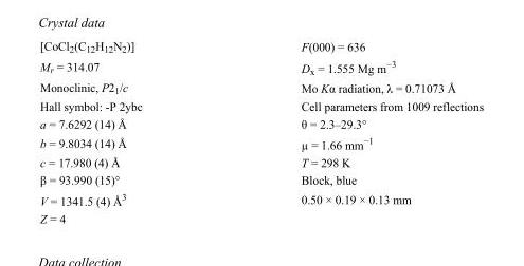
<table><tbody><tr><td>[CoCl<sub>2</sub>(C<sub>12</sub>H<sub>12</sub>N<sub>2</sub>)]</td><td>F(000) = 636</td></tr><tr><td>M<sub>r</sub> = 314.07</td><td>D<sub>x</sub> = 1.555 Mg m<sup>−3</sup></td></tr><tr><td>Monoclinic, P2<sub>1</sub>/c</td><td>Mo Kα radiation, λ = 0.71073 Å</td></tr><tr><td>Hall symbol: -P 2ybc</td><td>Cell parameters from 1009 reflections</td></tr><tr><td>a = 7.6292 (14) Å</td><td>θ = 2.3–29.3°</td></tr><tr><td>b = 9.8034 (14) Å</td><td>µ = 1.66 mm<sup>−1</sup></td></tr><tr><td>c = 17.980 (4) Å</td><td>T = 298 K</td></tr><tr><td>β = 93.990 (15)°</td><td>Block, blue</td></tr><tr><td>V = 1341.5 (4) Å<sup>3</sup></td><td>0.50 × 0.19 × 0.13 mm</td></tr><tr><td>Z = 4</td><td></td></tr></tbody></table>